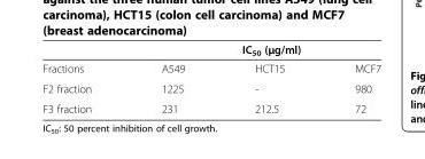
<table><thead><tr><td rowspan="2">Fractions</td><td colspan="3">IC<sub>50</sub> (μg/ml)</td></tr><tr><td>A549</td><td>HCT15</td><td>MCF7</td></tr></thead><tbody><tr><td>F2 fraction</td><td>1225</td><td>-</td><td>980</td></tr><tr><td>F3 fraction</td><td>231</td><td>212.5</td><td>72</td></tr></tbody></table>